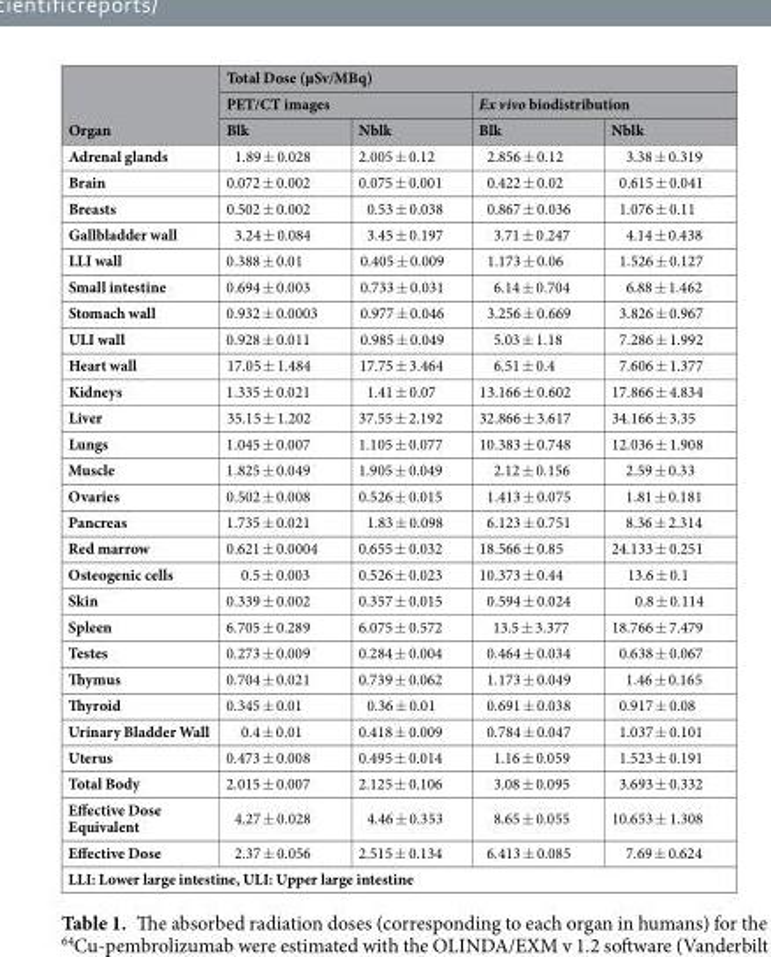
<table><thead><tr><td rowspan="3">Organ</td><td colspan="4">Total Dose (µSv/MBq)</td></tr><tr><td colspan="2">PET/CT images</td><td colspan="2">Ex vivo biodistribution</td></tr><tr><td>Blk</td><td>Nblk</td><td>Blk</td><td>Nblk</td></tr></thead><tbody><tr><td>Adrenal glands</td><td>1.89 ± 0.028</td><td>2.005 ± 0.12</td><td>2.856 ± 0.12</td><td>3.38 ± 0.319</td></tr><tr><td>Brain</td><td>0.072 ± 0.002</td><td>0.075 ± 0.001</td><td>0.422 ± 0.02</td><td>0.615 ± 0.041</td></tr><tr><td>Breasts</td><td>0.502 ± 0.002</td><td>0.53 ± 0.038</td><td>0.867 ± 0.036</td><td>1.076 ± 0.11</td></tr><tr><td>Gallbladder wall</td><td>3.24 ± 0.084</td><td>3.45 ± 0.197</td><td>3.71 ± 0.247</td><td>4.14 ± 0.438</td></tr><tr><td>LLI wall</td><td>0.388 ± 0.01</td><td>0.405 ± 0.009</td><td>1.173 ± 0.06</td><td>1.526 ± 0.127</td></tr><tr><td>Small intestine</td><td>0.694 ± 0.003</td><td>0.733 ± 0.031</td><td>6.14 ± 0.704</td><td>6.88 ± 1.462</td></tr><tr><td>Stomach wall</td><td>0.932 ± 0.0003</td><td>0.977 ± 0.046</td><td>3.256 ± 0.669</td><td>3.826 ± 0.967</td></tr><tr><td>ULI wall</td><td>0.928 ± 0.011</td><td>0.985 ± 0.049</td><td>5.03 ± 1.18</td><td>7.286 ± 1.992</td></tr><tr><td>Heart wall</td><td>17.05 ± 1.484</td><td>17.75 ± 3.464</td><td>6.51 ± 0.4</td><td>7.606 ± 1.377</td></tr><tr><td>Kidneys</td><td>1.335 ± 0.021</td><td>1.41 ± 0.07</td><td>13.166 ± 0.602</td><td>17.866 ± 4.834</td></tr><tr><td>Liver</td><td>35.15 ± 1.202</td><td>37.55 ± 2.192</td><td>32.866 ± 3.617</td><td>34.166 ± 3.35</td></tr><tr><td>Lungs</td><td>1.045 ± 0.007</td><td>1.105 ± 0.077</td><td>10.383 ± 0.748</td><td>12.036 ± 1.908</td></tr><tr><td>Muscle</td><td>1.825 ± 0.049</td><td>1.905 ± 0.049</td><td>2.12 ± 0.156</td><td>2.59 ± 0.33</td></tr><tr><td>Ovaries</td><td>0.502 ± 0.008</td><td>0.526 ± 0.015</td><td>1.413 ± 0.075</td><td>1.81 ± 0.181</td></tr><tr><td>Pancreas</td><td>1.735 ± 0.021</td><td>1.83 ± 0.098</td><td>6.123 ± 0.751</td><td>8.36 ± 2.314</td></tr><tr><td>Red marrow</td><td>0.621 ± 0.0004</td><td>0.655 ± 0.032</td><td>18.566 ± 0.85</td><td>24.133 ± 0.251</td></tr><tr><td>Osteogenic cells</td><td>0.5 ± 0.003</td><td>0.526 ± 0.023</td><td>10.373 ± 0.44</td><td>13.6 ± 0.1</td></tr><tr><td>Skin</td><td>0.339 ± 0.002</td><td>0.357 ± 0.015</td><td>0.594 ± 0.024</td><td>0.8 ± 0.114</td></tr><tr><td>Spleen</td><td>6.705 ± 0.289</td><td>6.075 ± 0.572</td><td>13.5 ± 3.377</td><td>18.766 ± 7.479</td></tr><tr><td>Testes</td><td>0.273 ± 0.009</td><td>0.284 ± 0.004</td><td>0.464 ± 0.034</td><td>0.638 ± 0.067</td></tr><tr><td>Thymus</td><td>0.704 ± 0.021</td><td>0.739 ± 0.062</td><td>1.173 ± 0.049</td><td>1.46 ± 0.165</td></tr><tr><td>Thyroid</td><td>0.345 ± 0.01</td><td>0.36 ± 0.01</td><td>0.691 ± 0.038</td><td>0.917 ± 0.08</td></tr><tr><td>Urinary Bladder Wall</td><td>0.4 ± 0.01</td><td>0.418 ± 0.009</td><td>0.784 ± 0.047</td><td>1.037 ± 0.101</td></tr><tr><td>Uterus</td><td>0.473 ± 0.008</td><td>0.495 ± 0.014</td><td>1.16 ± 0.059</td><td>1.523 ± 0.191</td></tr><tr><td>Total Body</td><td>2.015 ± 0.007</td><td>2.125 ± 0.106</td><td>3.08 ± 0.095</td><td>3.693 ± 0.332</td></tr><tr><td>Effective Dose Equivalent</td><td>4.27 ± 0.028</td><td>4.46 ± 0.353</td><td>8.65 ± 0.055</td><td>10.653 ± 1.308</td></tr><tr><td>Effective Dose</td><td>2.37 ± 0.056</td><td>2.515 ± 0.134</td><td>6.413 ± 0.085</td><td>7.69 ± 0.624</td></tr><tr><td colspan="5">LLI: Lower large intestine, ULI: Upper large intestine</td></tr></tbody></table>